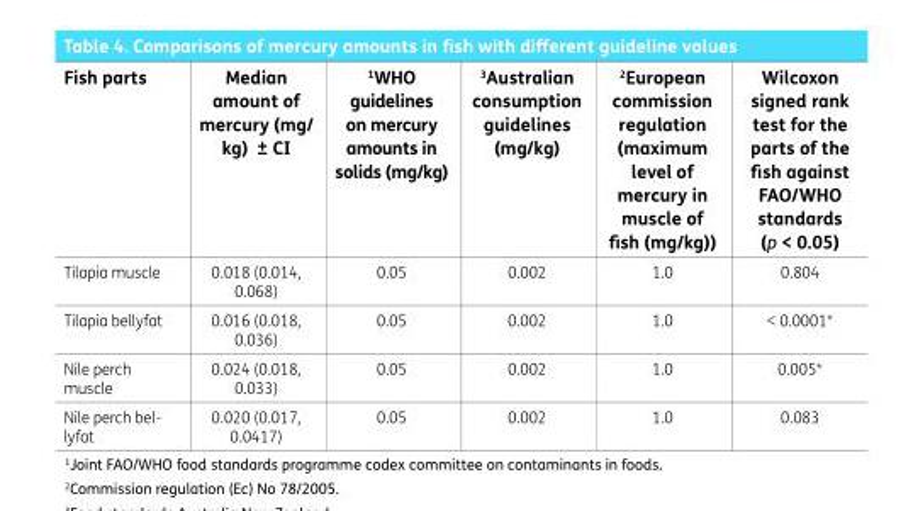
<table><thead><tr><td>Fish parts</td><td>Median amount of mercury (mg/ kg) ± CI</td><td><sup>1</sup>WHO guidelines on mercury amounts in solids (mg/kg)</td><td><sup>3</sup>Australian consumption guidelines (mg/kg)</td><td><sup>2</sup>European commission regulation (maximum level of mercury in muscle of fish (mg/kg))</td><td>Wilcoxon signed rank test for the parts of the fish against FAO/WHO standards (p &lt; 0.05)</td></tr></thead><tbody><tr><td>Tilapia muscle</td><td>0.018 (0.014, 0.068)</td><td>0.05</td><td>0.002</td><td>1.0</td><td>0.804</td></tr><tr><td>Tilapia bellyfat</td><td>0.016 (0.018, 0.036)</td><td>0.05</td><td>0.002</td><td>1.0</td><td>&lt; 0.0001*</td></tr><tr><td>Nile perch muscle</td><td>0.024 (0.018, 0.033)</td><td>0.05</td><td>0.002</td><td>1.0</td><td>0.005*</td></tr><tr><td>Nile perch bel- lyfat</td><td>0.020 (0.017, 0.0417)</td><td>0.05</td><td>0.002</td><td>1.0</td><td>0.083</td></tr></tbody></table>